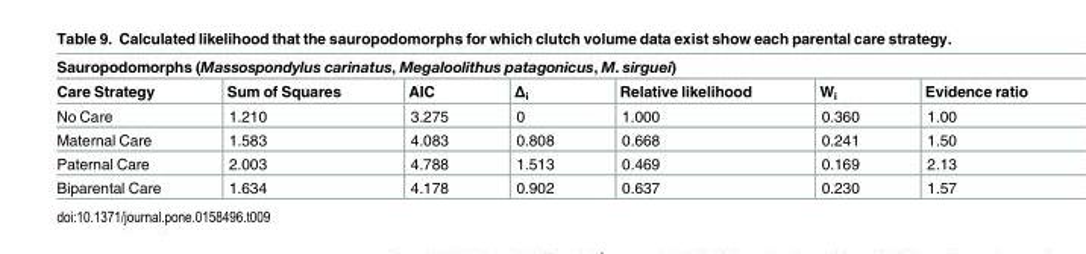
<table><thead><tr><td colspan="7">Sauropodomorphs (Massospondylus carinatus, Megaloolithus patagonicus, M. sirguei)</td></tr><tr><td>Care Strategy</td><td>Sum of Squares</td><td>AIC</td><td>Δ<sub>i</sub></td><td>Relative likelihood</td><td>W<sub>i</sub></td><td>Evidence ratio</td></tr></thead><tbody><tr><td>No Care</td><td>1.210</td><td>3.275</td><td>0</td><td>1.000</td><td>0.360</td><td>1.00</td></tr><tr><td>Maternal Care</td><td>1.583</td><td>4.083</td><td>0.808</td><td>0.668</td><td>0.241</td><td>1.50</td></tr><tr><td>Paternal Care</td><td>2.003</td><td>4.788</td><td>1.513</td><td>0.469</td><td>0.169</td><td>2.13</td></tr><tr><td>Biparental Care</td><td>1.634</td><td>4.178</td><td>0.902</td><td>0.637</td><td>0.230</td><td>1.57</td></tr></tbody></table>